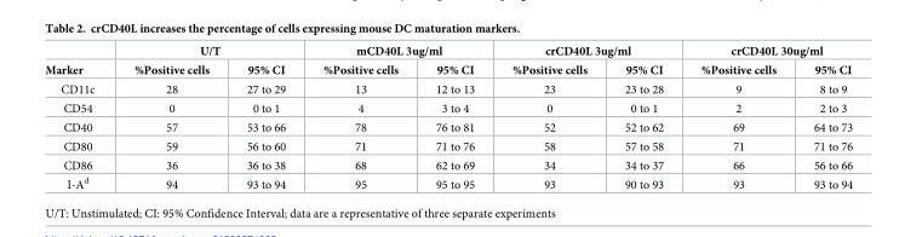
<table><thead><tr><td rowspan="2">Marker</td><td colspan="2">U/T</td><td colspan="2">mCD40L 3ug/ml</td><td colspan="2">crCD40L 3ug/ml</td><td colspan="2">crCD40L 30ug/ml</td></tr><tr><td>%Positive cells</td><td>95% CI</td><td>%Positive cells</td><td>95% CI</td><td>%Positive cells</td><td>95% CI</td><td>%Positive cells</td><td>95% CI</td></tr></thead><tbody><tr><td>CD11c</td><td>28</td><td>27 to 29</td><td>13</td><td>12 to 13</td><td>23</td><td>23 to 28</td><td>9</td><td>8 to 9</td></tr><tr><td>CD54</td><td>0</td><td>0 to 1</td><td>4</td><td>3 to 4</td><td>0</td><td>0 to 1</td><td>2</td><td>2 to 3</td></tr><tr><td>CD40</td><td>57</td><td>53 to 66</td><td>78</td><td>76 to 81</td><td>52</td><td>52 to 62</td><td>69</td><td>64 to 73</td></tr><tr><td>CD80</td><td>59</td><td>56 to 60</td><td>71</td><td>71 to 76</td><td>58</td><td>57 to 58</td><td>71</td><td>71 to 76</td></tr><tr><td>CD86</td><td>36</td><td>36 to 38</td><td>68</td><td>62 to 69</td><td>34</td><td>34 to 37</td><td>66</td><td>56 to 66</td></tr><tr><td>I-A<sup>d</sup></td><td>94</td><td>93 to 94</td><td>95</td><td>95 to 95</td><td>93</td><td>90 to 93</td><td>93</td><td>93 to 94</td></tr></tbody></table>